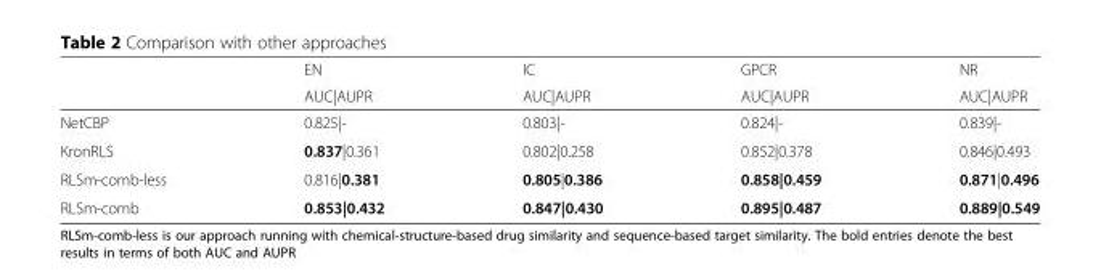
<table><thead><tr><td rowspan="2"></td><td rowspan="2">EN AUC|AUPR</td><td rowspan="2">IC AUC|AUPR</td><td rowspan="2">GPCR AUC|AUPR</td><td rowspan="2">NR AUC|AUPR</td></tr><tr></tr></thead><tbody><tr><td>NetCBP</td><td>0.825|-</td><td>0.803|-</td><td>0.824|-</td><td>0.839|-</td></tr><tr><td>KronRLS</td><td>0.837|0.361</td><td>0.802|0.258</td><td>0.852|0.378</td><td>0.846|0.493</td></tr><tr><td>RLSm-comb-less</td><td>0.816|0.381</td><td>0.805|0.386</td><td>0.858|0.459</td><td>0.871|0.496</td></tr><tr><td>RLSm-comb</td><td>0.853|0.432</td><td>0.847|0.430</td><td>0.895|0.487</td><td>0.889|0.549</td></tr></tbody></table>